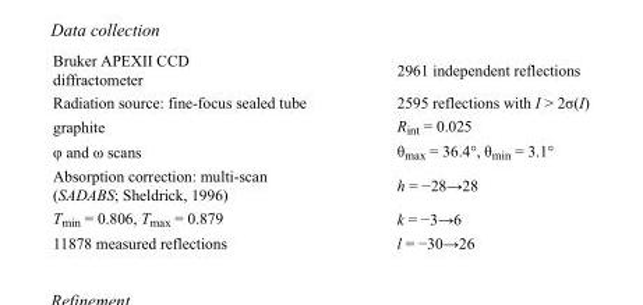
<table><tbody><tr><td>Bruker APEXII CCD diffractometer</td><td>2961 independent reflections</td></tr><tr><td>Radiation source: fine-focus sealed tube</td><td>2595 reflections with I &gt; 2σ(I)</td></tr><tr><td>graphite</td><td>R<sub>int</sub> = 0.025</td></tr><tr><td>φ and ω scans</td><td>θ<sub>max</sub> = 36.4°, θ<sub>min</sub> = 3.1°</td></tr><tr><td>Absorption correction: multi-scan (SADABS; Sheldrick, 1996)</td><td>h = −28→28</td></tr><tr><td>T<sub>min</sub> = 0.806, T<sub>max</sub> = 0.879</td><td>k = −3→6</td></tr><tr><td>11878 measured reflections</td><td>l = −30→26</td></tr></tbody></table>